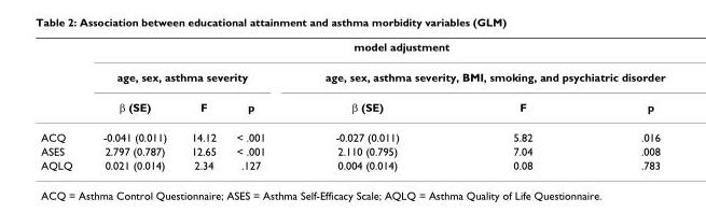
<table><thead><tr><td rowspan="3"></td><td colspan="6">model adjustment</td></tr><tr><td colspan="3">age, sex, asthma severity</td><td colspan="3">age, sex, asthma severity, BMI, smoking, and psychiatric disorder</td></tr><tr><td>β (SE)</td><td>F</td><td>p</td><td>β (SE)</td><td>F</td><td>p</td></tr></thead><tbody><tr><td>ACQ</td><td>-0.041 (0.011)</td><td>14.12</td><td>&lt; .001</td><td>-0.027 (0.011)</td><td>5.82</td><td>.016</td></tr><tr><td>ASES</td><td>2.797 (0.787)</td><td>12.65</td><td>&lt; .001</td><td>2.110 (0.795)</td><td>7.04</td><td>.008</td></tr><tr><td>AQLQ</td><td>0.021 (0.014)</td><td>2.34</td><td>.127</td><td>0.004 (0.014)</td><td>0.08</td><td>.783</td></tr></tbody></table>